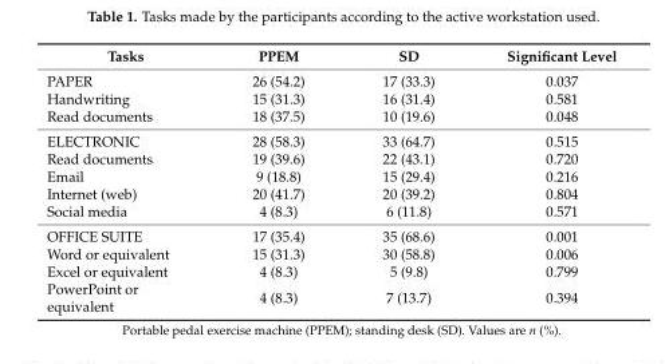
<table><thead><tr><td>Tasks</td><td>PPEM</td><td>SD</td><td>Significant Level</td></tr></thead><tbody><tr><td>PAPER</td><td>26 (54.2)</td><td>17 (33.3)</td><td>0.037</td></tr><tr><td>Handwriting</td><td>15 (31.3)</td><td>16 (31.4)</td><td>0.581</td></tr><tr><td>Read documents</td><td>18 (37.5)</td><td>10 (19.6)</td><td>0.048</td></tr><tr><td>ELECTRONIC</td><td>28 (58.3)</td><td>33 (64.7)</td><td>0.515</td></tr><tr><td>Read documents</td><td>19 (39.6)</td><td>22 (43.1)</td><td>0.720</td></tr><tr><td>Email</td><td>9 (18.8)</td><td>15 (29.4)</td><td>0.216</td></tr><tr><td>Internet (web)</td><td>20 (41.7)</td><td>20 (39.2)</td><td>0.804</td></tr><tr><td>Social media</td><td>4 (8.3)</td><td>6 (11.8)</td><td>0.571</td></tr><tr><td>OFFICE SUITE</td><td>17 (35.4)</td><td>35 (68.6)</td><td>0.001</td></tr><tr><td>Word or equivalent</td><td>15 (31.3)</td><td>30 (58.8)</td><td>0.006</td></tr><tr><td>Excel or equivalent</td><td>4 (8.3)</td><td>5 (9.8)</td><td>0.799</td></tr><tr><td>PowerPoint or equivalent</td><td>4 (8.3)</td><td>7 (13.7)</td><td>0.394</td></tr></tbody></table>